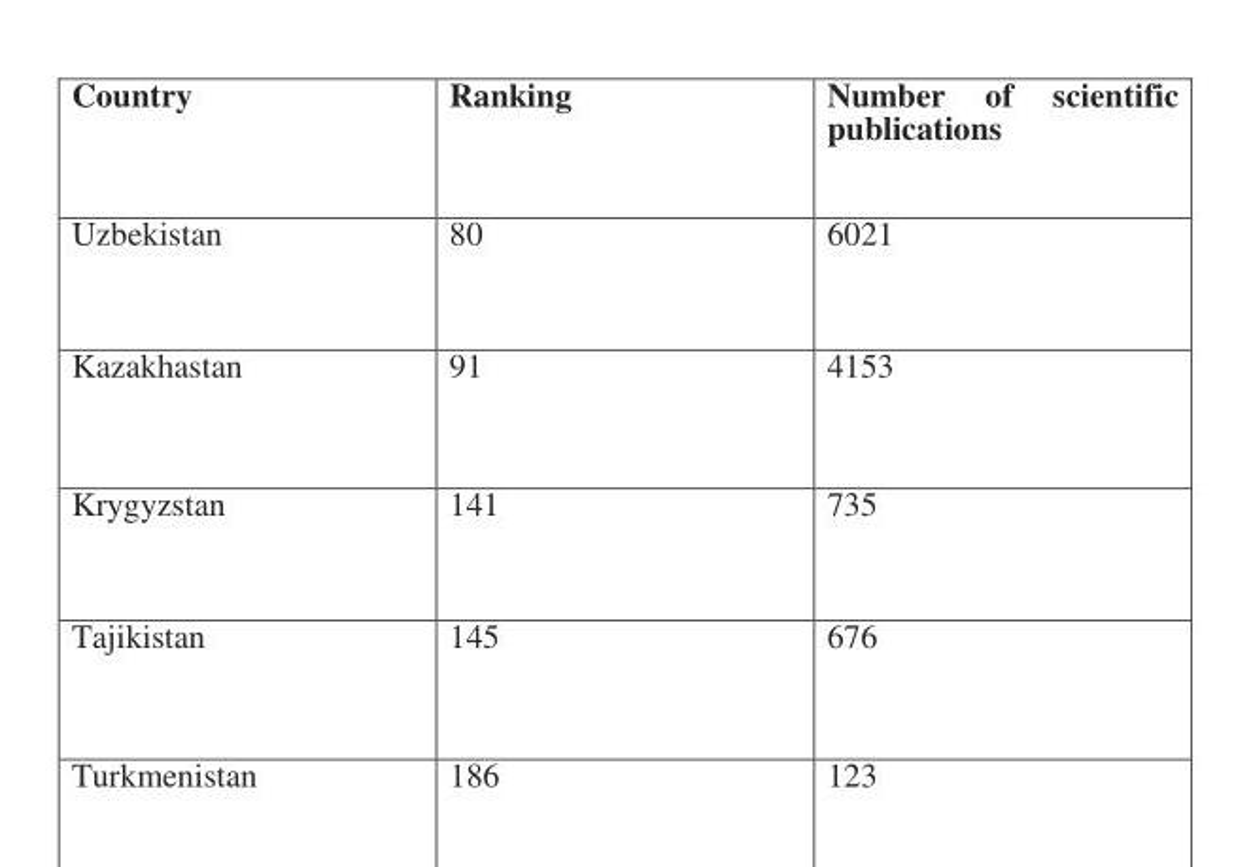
<table><thead><tr><td>Country</td><td>Ranking</td><td>Number of scientific publications</td></tr></thead><tbody><tr><td>Uzbekistan</td><td>80</td><td>6021</td></tr><tr><td>Kazakhastan</td><td>91</td><td>4153</td></tr><tr><td>Krygyzstan</td><td>141</td><td>735</td></tr><tr><td>Tajikistan</td><td>145</td><td>676</td></tr><tr><td>Turkmenistan</td><td>186</td><td>123</td></tr></tbody></table>